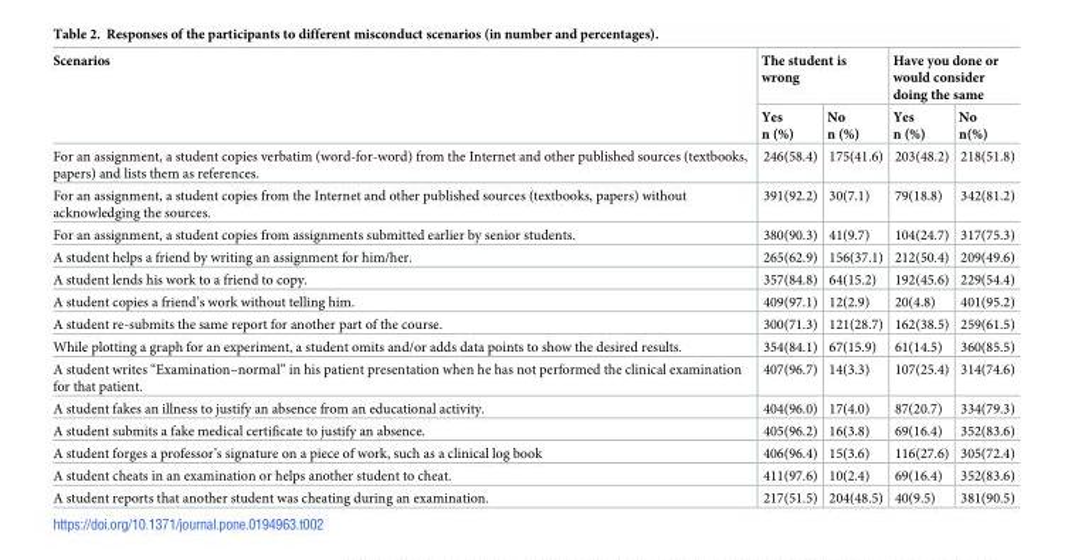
<table><thead><tr><td rowspan="2">Scenarios</td><td colspan="2">The student is wrong</td><td colspan="2">Have you done or would consider doing the same</td></tr><tr><td>Yes n (%)</td><td>No n (%)</td><td>Yes n (%)</td><td>No n(%)</td></tr></thead><tbody><tr><td>For an assignment, a student copies verbatim (word-for-word) from the Internet and other published sources (textbooks, papers) and lists them as references.</td><td>246(58.4)</td><td>175(41.6)</td><td>203(48.2)</td><td>218(51.8)</td></tr><tr><td>For an assignment, a student copies from the Internet and other published sources (textbooks, papers) without acknowledging the sources.</td><td>391(92.2)</td><td>30(7.1)</td><td>79(18.8)</td><td>342(81.2)</td></tr><tr><td>For an assignment, a student copies from assignments submitted earlier by senior students.</td><td>380(90.3)</td><td>41(9.7)</td><td>104(24.7)</td><td>317(75.3)</td></tr><tr><td>A student helps a friend by writing an assignment for him/her.</td><td>265(62.9)</td><td>156(37.1)</td><td>212(50.4)</td><td>209(49.6)</td></tr><tr><td>A student lends his work to a friend to copy.</td><td>357(84.8)</td><td>64(15.2)</td><td>192(45.6)</td><td>229(54.4)</td></tr><tr><td>A student copies a friend’s work without telling him.</td><td>409(97.1)</td><td>12(2.9)</td><td>20(4.8)</td><td>401(95.2)</td></tr><tr><td>A student re-submits the same report for another part of the course.</td><td>300(71.3)</td><td>121(28.7)</td><td>162(38.5)</td><td>259(61.5)</td></tr><tr><td>While plotting a graph for an experiment, a student omits and/or adds data points to show the desired results.</td><td>354(84.1)</td><td>67(15.9)</td><td>61(14.5)</td><td>360(85.5)</td></tr><tr><td>A student writes “Examination–normal” in his patient presentation when he has not performed the clinical examination for that patient.</td><td>407(96.7)</td><td>14(3.3)</td><td>107(25.4)</td><td>314(74.6)</td></tr><tr><td>A student fakes an illness to justify an absence from an educational activity.</td><td>404(96.0)</td><td>17(4.0)</td><td>87(20.7)</td><td>334(79.3)</td></tr><tr><td>A student submits a fake medical certificate to justify an absence.</td><td>405(96.2)</td><td>16(3.8)</td><td>69(16.4)</td><td>352(83.6)</td></tr><tr><td>A student forges a professor’s signature on a piece of work, such as a clinical log book</td><td>406(96.4)</td><td>15(3.6)</td><td>116(27.6)</td><td>305(72.4)</td></tr><tr><td>A student cheats in an examination or helps another student to cheat.</td><td>411(97.6)</td><td>10(2.4)</td><td>69(16.4)</td><td>352(83.6)</td></tr><tr><td>A student reports that another student was cheating during an examination.</td><td>217(51.5)</td><td>204(48.5)</td><td>40(9.5)</td><td>381(90.5)</td></tr></tbody></table>